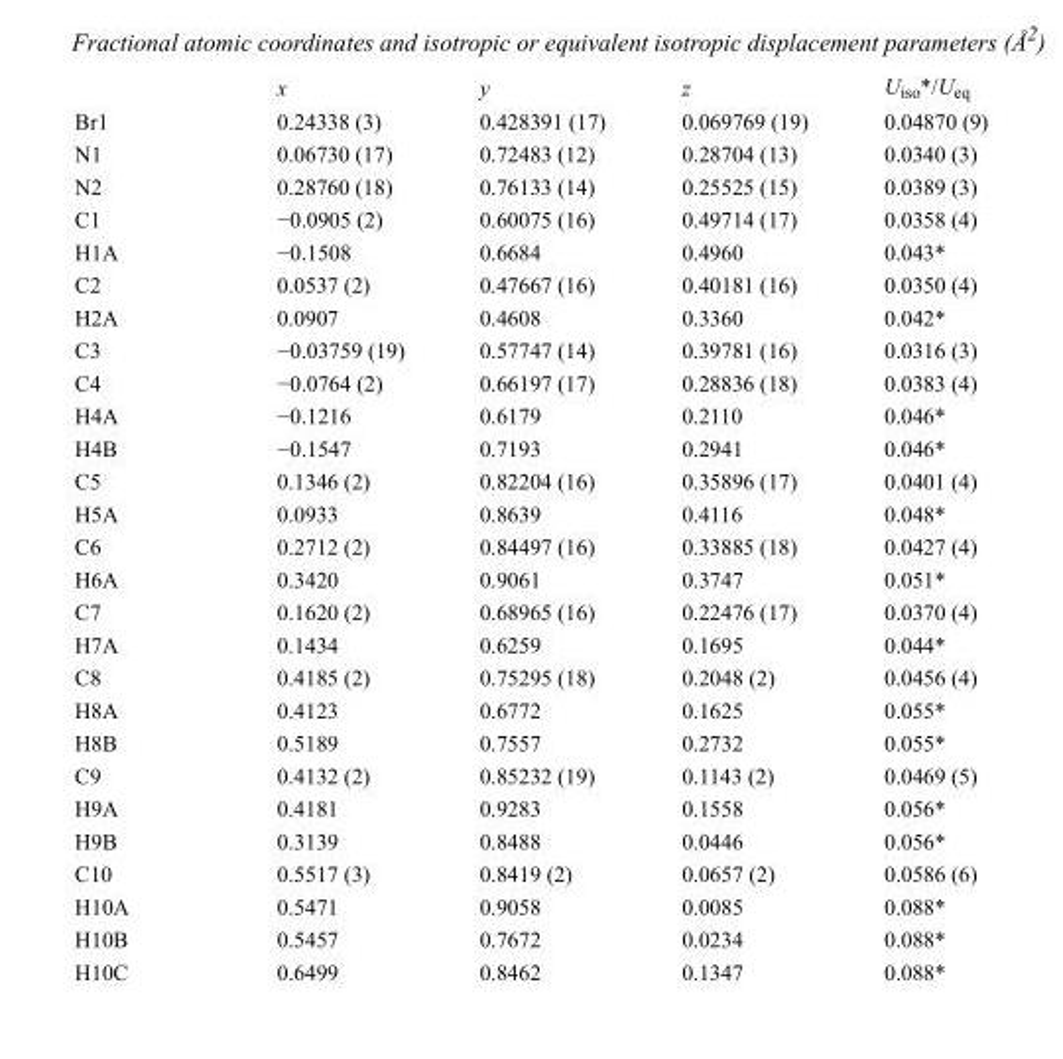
<table><thead><tr><td></td><td>x</td><td>y</td><td>z</td><td>U<sub>iso</sub>*/U<sub>eq</sub></td></tr></thead><tbody><tr><td>Br1</td><td>0.24338 (3)</td><td>0.428391 (17)</td><td>0.069769 (19)</td><td>0.04870 (9)</td></tr><tr><td>N1</td><td>0.06730 (17)</td><td>0.72483 (12)</td><td>0.28704 (13)</td><td>0.0340 (3)</td></tr><tr><td>N2</td><td>0.28760 (18)</td><td>0.76133 (14)</td><td>0.25525 (15)</td><td>0.0389 (3)</td></tr><tr><td>C1</td><td>−0.0905 (2)</td><td>0.60075 (16)</td><td>0.49714 (17)</td><td>0.0358 (4)</td></tr><tr><td>H1A</td><td>−0.1508</td><td>0.6684</td><td>0.4960</td><td>0.043*</td></tr><tr><td>C2</td><td>0.0537 (2)</td><td>0.47667 (16)</td><td>0.40181 (16)</td><td>0.0350 (4)</td></tr><tr><td>H2A</td><td>0.0907</td><td>0.4608</td><td>0.3360</td><td>0.042*</td></tr><tr><td>C3</td><td>−0.03759 (19)</td><td>0.57747 (14)</td><td>0.39781 (16)</td><td>0.0316 (3)</td></tr><tr><td>C4</td><td>−0.0764 (2)</td><td>0.66197 (17)</td><td>0.28836 (18)</td><td>0.0383 (4)</td></tr><tr><td>H4A</td><td>−0.1216</td><td>0.6179</td><td>0.2110</td><td>0.046*</td></tr><tr><td>H4B</td><td>−0.1547</td><td>0.7193</td><td>0.2941</td><td>0.046*</td></tr><tr><td>C5</td><td>0.1346 (2)</td><td>0.82204 (16)</td><td>0.35896 (17)</td><td>0.0401 (4)</td></tr><tr><td>H5A</td><td>0.0933</td><td>0.8639</td><td>0.4116</td><td>0.048*</td></tr><tr><td>C6</td><td>0.2712 (2)</td><td>0.84497 (16)</td><td>0.33885 (18)</td><td>0.0427 (4)</td></tr><tr><td>H6A</td><td>0.3420</td><td>0.9061</td><td>0.3747</td><td>0.051*</td></tr><tr><td>C7</td><td>0.1620 (2)</td><td>0.68965 (16)</td><td>0.22476 (17)</td><td>0.0370 (4)</td></tr><tr><td>H7A</td><td>0.1434</td><td>0.6259</td><td>0.1695</td><td>0.044*</td></tr><tr><td>C8</td><td>0.4185 (2)</td><td>0.75295 (18)</td><td>0.2048 (2)</td><td>0.0456 (4)</td></tr><tr><td>H8A</td><td>0.4123</td><td>0.6772</td><td>0.1625</td><td>0.055*</td></tr><tr><td>H8B</td><td>0.5189</td><td>0.7557</td><td>0.2732</td><td>0.055*</td></tr><tr><td>C9</td><td>0.4132 (2)</td><td>0.85232 (19)</td><td>0.1143 (2)</td><td>0.0469 (5)</td></tr><tr><td>H9A</td><td>0.4181</td><td>0.9283</td><td>0.1558</td><td>0.056*</td></tr><tr><td>H9B</td><td>0.3139</td><td>0.8488</td><td>0.0446</td><td>0.056*</td></tr><tr><td>C10</td><td>0.5517 (3)</td><td>0.8419 (2)</td><td>0.0657 (2)</td><td>0.0586 (6)</td></tr><tr><td>H10A</td><td>0.5471</td><td>0.9058</td><td>0.0085</td><td>0.088*</td></tr><tr><td>H10B</td><td>0.5457</td><td>0.7672</td><td>0.0234</td><td>0.088*</td></tr><tr><td>H10C</td><td>0.6499</td><td>0.8462</td><td>0.1347</td><td>0.088*</td></tr></tbody></table>